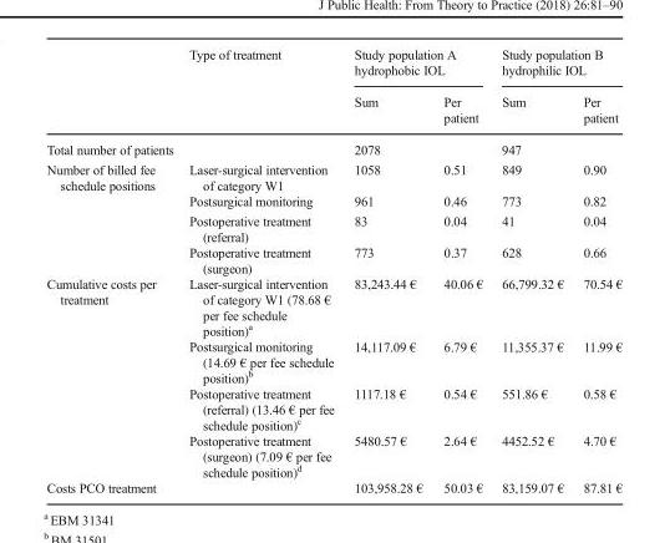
<table><thead><tr><td rowspan="2"></td><td rowspan="2">Type of treatment</td><td colspan="2">Study population A hydrophobic IOL</td><td colspan="2">Study population B hydrophilic IOL</td></tr><tr><td>Sum</td><td>Per patient</td><td>Sum</td><td>Per patient</td></tr></thead><tbody><tr><td colspan="2">Total number of patients</td><td>2078</td><td></td><td>947</td><td></td></tr><tr><td rowspan="4">Number of billed fee schedule positions</td><td>Laser-surgical intervention of category W1</td><td>1058</td><td>0.51</td><td>849</td><td>0.90</td></tr><tr><td>Postsurgical monitoring</td><td>961</td><td>0.46</td><td>773</td><td>0.82</td></tr><tr><td>Postoperative treatment (referral)</td><td>83</td><td>0.04</td><td>41</td><td>0.04</td></tr><tr><td>Postoperative treatment (surgeon)</td><td>773</td><td>0.37</td><td>628</td><td>0.66</td></tr><tr><td rowspan="4">Cumulative costs per treatment</td><td>Laser-surgical intervention of category W1 (78.68 € per fee schedule position)<sup>a</sup></td><td>83,243.44 €</td><td>40.06 €</td><td>66,799.32 €</td><td>70.54 €</td></tr><tr><td>Postsurgical monitoring (14.69 € per fee schedule position)<sup>b</sup></td><td>14,117.09 €</td><td>6.79 €</td><td>11,355.37 €</td><td>11.99 €</td></tr><tr><td>Postoperative treatment (referral) (13.46 € per fee schedule position)<sup>c</sup></td><td>1117.18 €</td><td>0.54 €</td><td>551.86 €</td><td>0.58 €</td></tr><tr><td>Postoperative treatment (surgeon) (7.09 € per fee schedule position)<sup>d</sup></td><td>5480.57 €</td><td>2.64 €</td><td>4452.52 €</td><td>4.70 €</td></tr><tr><td colspan="2">Costs PCO treatment</td><td>103,958.28 €</td><td>50.03 €</td><td>83,159.07 €</td><td>87.81 €</td></tr></tbody></table>